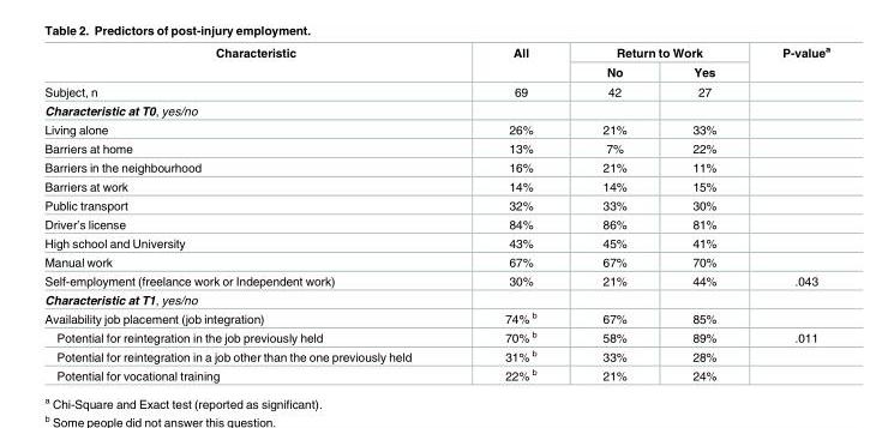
<table><thead><tr><td rowspan="2">Characteristic</td><td rowspan="2">All</td><td colspan="2">Return to Work</td><td rowspan="2">P-value<sup>a</sup></td></tr><tr><td>No</td><td>Yes</td></tr></thead><tbody><tr><td>Subject, n</td><td>69</td><td>42</td><td>27</td><td></td></tr><tr><td colspan="5">Characteristic at T0, yes/no</td></tr><tr><td>Living alone</td><td>26%</td><td>21%</td><td>33%</td><td></td></tr><tr><td>Barriers at home</td><td>13%</td><td>7%</td><td>22%</td><td></td></tr><tr><td>Barriers in the neighbourhood</td><td>16%</td><td>21%</td><td>11%</td><td></td></tr><tr><td>Barriers at work</td><td>14%</td><td>14%</td><td>15%</td><td></td></tr><tr><td>Public transport</td><td>32%</td><td>33%</td><td>30%</td><td></td></tr><tr><td>Driver’s license</td><td>84%</td><td>86%</td><td>81%</td><td></td></tr><tr><td>High school and University</td><td>43%</td><td>45%</td><td>41%</td><td></td></tr><tr><td>Manual work</td><td>67%</td><td>67%</td><td>70%</td><td></td></tr><tr><td>Self-employment (freelance work or Independent work)</td><td>30%</td><td>21%</td><td>44%</td><td>.043</td></tr><tr><td colspan="5">Characteristic at T1, yes/no</td></tr><tr><td>Availability job placement (job integration)</td><td>74% <sup>b</sup></td><td>67%</td><td>85%</td><td></td></tr><tr><td>Potential for reintegration in the job previously held</td><td>70% <sup>b</sup></td><td>58%</td><td>89%</td><td>.011</td></tr><tr><td>Potential for reintegration in a job other than the one previously held</td><td>31% <sup>b</sup></td><td>33%</td><td>28%</td><td></td></tr><tr><td>Potential for vocational training</td><td>22% <sup>b</sup></td><td>21%</td><td>24%</td><td></td></tr></tbody></table>